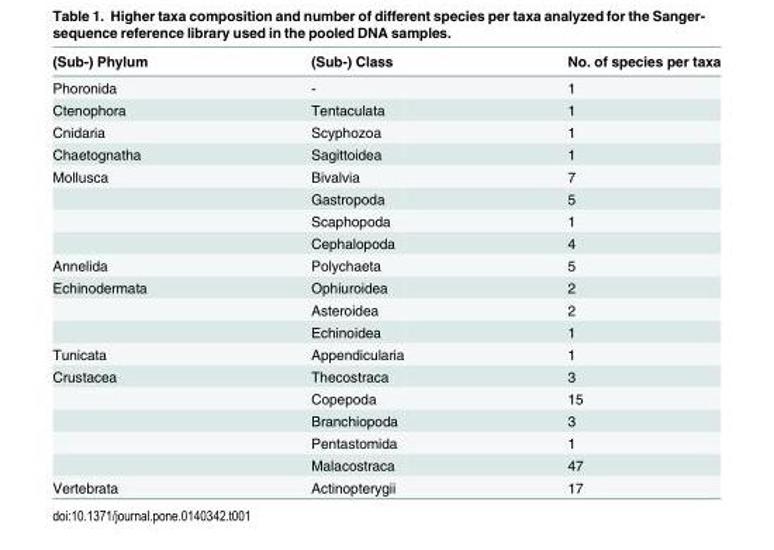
<table><thead><tr><td>(Sub-) Phylum</td><td>(Sub-) Class</td><td>No. of species per taxa</td></tr></thead><tbody><tr><td>Phoronida</td><td>-</td><td>1</td></tr><tr><td>Ctenophora</td><td>Tentaculata</td><td>1</td></tr><tr><td>Cnidaria</td><td>Scyphozoa</td><td>1</td></tr><tr><td>Chaetognatha</td><td>Sagittoidea</td><td>1</td></tr><tr><td rowspan="4">Mollusca</td><td>Bivalvia</td><td>7</td></tr><tr><td>Gastropoda</td><td>5</td></tr><tr><td>Scaphopoda</td><td>1</td></tr><tr><td>Cephalopoda</td><td>4</td></tr><tr><td>Annelida</td><td>Polychaeta</td><td>5</td></tr><tr><td rowspan="3">Echinodermata</td><td>Ophiuroidea</td><td>2</td></tr><tr><td>Asteroidea</td><td>2</td></tr><tr><td>Echinoidea</td><td>1</td></tr><tr><td>Tunicata</td><td>Appendicularia</td><td>1</td></tr><tr><td rowspan="5">Crustacea</td><td>Thecostraca</td><td>3</td></tr><tr><td>Copepoda</td><td>15</td></tr><tr><td>Branchiopoda</td><td>3</td></tr><tr><td>Pentastomida</td><td>1</td></tr><tr><td>Malacostraca</td><td>47</td></tr><tr><td>Vertebrata</td><td>Actinopterygii</td><td>17</td></tr></tbody></table>